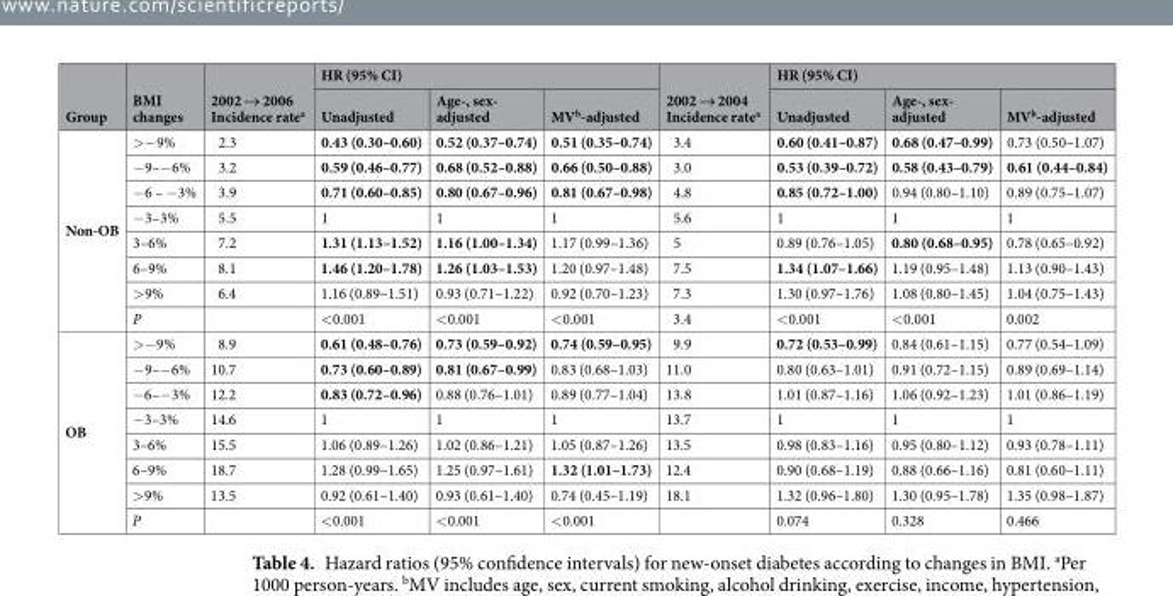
<table><thead><tr><td rowspan="2">Group</td><td rowspan="2">BMI changes</td><td rowspan="2">2002 → 2006 Incidence rate<sup>a</sup></td><td colspan="3">HR (95% CI)</td><td rowspan="2">2002 → 2004 Incidence rate<sup>a</sup></td><td colspan="3">HR (95% CI)</td></tr><tr><td>Unadjusted</td><td>Age-, sex- adjusted</td><td>MV<sup>b</sup>-adjusted</td><td>Unadjusted</td><td>Age-, sex- adjusted</td><td>MV<sup>b</sup>-adjusted</td></tr></thead><tbody><tr><td rowspan="8">Non-OB</td><td>&gt;−9%</td><td>2.3</td><td>0.43 (0.30–0.60)</td><td>0.52 (0.37–0.74)</td><td>0.51 (0.35–0.74)</td><td>3.4</td><td>0.60 (0.41–0.87)</td><td>0.68 (0.47–0.99)</td><td>0.73 (0.50–1.07)</td></tr><tr><td>−9–−6%</td><td>3.2</td><td>0.59 (0.46–0.77)</td><td>0.68 (0.52–0.88)</td><td>0.66 (0.50–0.88)</td><td>3.0</td><td>0.53 (0.39–0.72)</td><td>0.58 (0.43–0.79)</td><td>0.61 (0.44–0.84)</td></tr><tr><td>−6 – −3%</td><td>3.9</td><td>0.71 (0.60–0.85)</td><td>0.80 (0.67–0.96)</td><td>0.81 (0.67–0.98)</td><td>4.8</td><td>0.85 (0.72–1.00)</td><td>0.94 (0.80–1.10)</td><td>0.89 (0.75–1.07)</td></tr><tr><td>−3–3%</td><td>5.5</td><td>1</td><td>1</td><td>1</td><td>5.6</td><td>1</td><td>1</td><td>1</td></tr><tr><td>3–6%</td><td>7.2</td><td>1.31 (1.13–1.52)</td><td>1.16 (1.00–1.34)</td><td>1.17 (0.99–1.36)</td><td>5</td><td>0.89 (0.76–1.05)</td><td>0.80 (0.68–0.95)</td><td>0.78 (0.65–0.92)</td></tr><tr><td>6–9%</td><td>8.1</td><td>1.46 (1.20–1.78)</td><td>1.26 (1.03–1.53)</td><td>1.20 (0.97–1.48)</td><td>7.5</td><td>1.34 (1.07–1.66)</td><td>1.19 (0.95–1.48)</td><td>1.13 (0.90–1.43)</td></tr><tr><td>&gt;9%</td><td>6.4</td><td>1.16 (0.89–1.51)</td><td>0.93 (0.71–1.22)</td><td>0.92 (0.70–1.23)</td><td>7.3</td><td>1.30 (0.97–1.76)</td><td>1.08 (0.80–1.45)</td><td>1.04 (0.75–1.43)</td></tr><tr><td>P</td><td></td><td>&lt;0.001</td><td>&lt;0.001</td><td>&lt;0.001</td><td>3.4</td><td>&lt;0.001</td><td>&lt;0.001</td><td>0.002</td></tr><tr><td rowspan="8">OB</td><td>&gt;−9%</td><td>8.9</td><td>0.61 (0.48–0.76)</td><td>0.73 (0.59–0.92)</td><td>0.74 (0.59–0.95)</td><td>9.9</td><td>0.72 (0.53–0.99)</td><td>0.84 (0.61–1.15)</td><td>0.77 (0.54–1.09)</td></tr><tr><td>−9–−6%</td><td>10.7</td><td>0.73 (0.60–0.89)</td><td>0.81 (0.67–0.99)</td><td>0.83 (0.68–1.03)</td><td>11.0</td><td>0.80 (0.63–1.01)</td><td>0.91 (0.72–1.15)</td><td>0.89 (0.69–1.14)</td></tr><tr><td>−6–−3%</td><td>12.2</td><td>0.83 (0.72–0.96)</td><td>0.88 (0.76–1.01)</td><td>0.89 (0.77–1.04)</td><td>13.8</td><td>1.01 (0.87–1.16)</td><td>1.06 (0.92–1.23)</td><td>1.01 (0.86–1.19)</td></tr><tr><td>−3–3%</td><td>14.6</td><td>1</td><td>1</td><td>1</td><td>13.7</td><td>1</td><td>1</td><td>1</td></tr><tr><td>3–6%</td><td>15.5</td><td>1.06 (0.89–1.26)</td><td>1.02 (0.86–1.21)</td><td>1.05 (0.87–1.26)</td><td>13.5</td><td>0.98 (0.83–1.16)</td><td>0.95 (0.80–1.12)</td><td>0.93 (0.78–1.11)</td></tr><tr><td>6–9%</td><td>18.7</td><td>1.28 (0.99–1.65)</td><td>1.25 (0.97–1.61)</td><td>1.32 (1.01–1.73)</td><td>12.4</td><td>0.90 (0.68–1.19)</td><td>0.88 (0.66–1.16)</td><td>0.81 (0.60–1.11)</td></tr><tr><td>&gt;9%</td><td>13.5</td><td>0.92 (0.61–1.40)</td><td>0.93 (0.61–1.40)</td><td>0.74 (0.45–1.19)</td><td>18.1</td><td>1.32 (0.96–1.80)</td><td>1.30 (0.95–1.78)</td><td>1.35 (0.98–1.87)</td></tr><tr><td>P</td><td></td><td>&lt;0.001</td><td>&lt;0.001</td><td>&lt;0.001</td><td></td><td>0.074</td><td>0.328</td><td>0.466</td></tr></tbody></table>